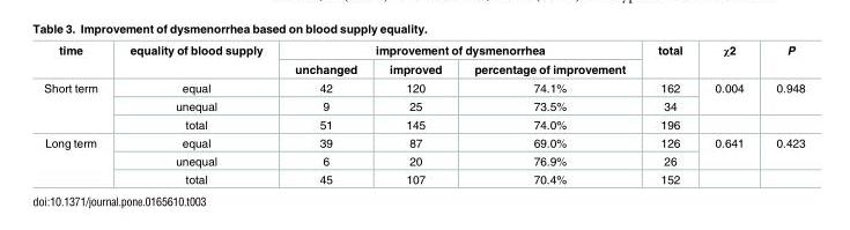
<table><thead><tr><td rowspan="2">time</td><td rowspan="2">equality of blood supply</td><td colspan="3">improvement of dysmenorrhea</td><td rowspan="2">total</td><td rowspan="2">χ2</td><td rowspan="2">P</td></tr><tr><td>unchanged</td><td>improved</td><td>percentage of improvement</td></tr></thead><tbody><tr><td rowspan="3">Short term</td><td>equal</td><td>42</td><td>120</td><td>74.1%</td><td>162</td><td rowspan="2">0.004</td><td rowspan="2">0.948</td></tr><tr><td>unequal</td><td>9</td><td>25</td><td>73.5%</td><td>34</td></tr><tr><td>total</td><td>51</td><td>145</td><td>74.0%</td><td>196</td><td></td><td></td></tr><tr><td rowspan="3">Long term</td><td>equal</td><td>39</td><td>87</td><td>69.0%</td><td>126</td><td rowspan="2">0.641</td><td rowspan="2">0.423</td></tr><tr><td>unequal</td><td>6</td><td>20</td><td>76.9%</td><td>26</td></tr><tr><td>total</td><td>45</td><td>107</td><td>70.4%</td><td>152</td><td></td><td></td></tr></tbody></table>